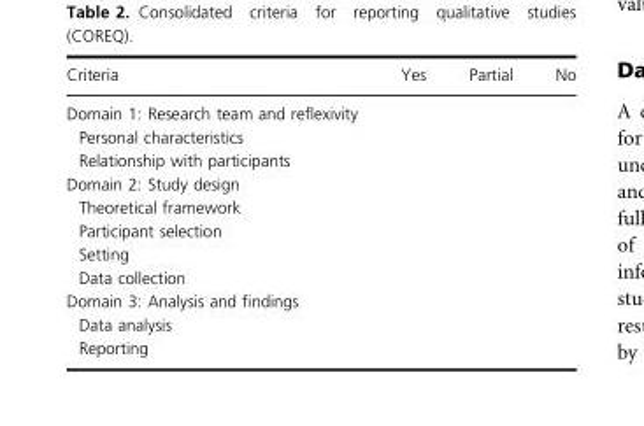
<table><thead><tr><td>Criteria</td><td>Yes</td><td>Partial</td><td>No</td></tr></thead><tbody><tr><td colspan="4">Domain 1: Research team and reflexivity Personal characteristics Relationship with participants</td></tr><tr><td colspan="4">Domain 2: Study design Theoretical framework Participant selection Setting Data collection</td></tr><tr><td>Domain 3: Analysis and findings Data analysis Reporting</td><td></td><td></td><td></td></tr></tbody></table>